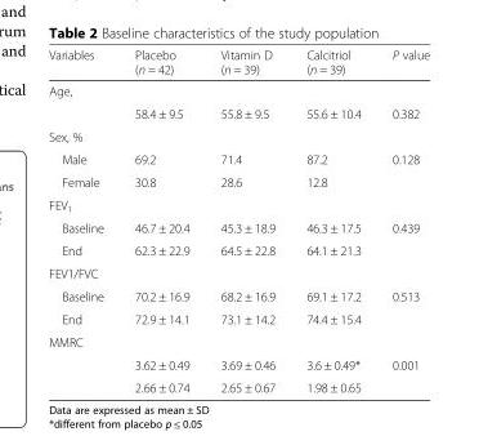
<table><thead><tr><td>Variables</td><td>Placebo (n = 42)</td><td>Vitamin D (n = 39)</td><td>Calcitriol (n = 39)</td><td>P value</td></tr></thead><tbody><tr><td colspan="5">Age,</td></tr><tr><td></td><td>58.4 ± 9.5</td><td>55.8 ± 9.5</td><td>55.6 ± 10.4</td><td>0.382</td></tr><tr><td colspan="5">Sex, %</td></tr><tr><td>Male</td><td>69.2</td><td>71.4</td><td>87.2</td><td rowspan="2">0.128</td></tr><tr><td>Female</td><td>30.8</td><td>28.6</td><td>12.8</td></tr><tr><td colspan="5">FEV<sub>1</sub></td></tr><tr><td>Baseline</td><td>46.7 ± 20.4</td><td>45.3 ± 18.9</td><td>46.3 ± 17.5</td><td rowspan="2">0.439</td></tr><tr><td>End</td><td>62.3 ± 22.9</td><td>64.5 ± 22.8</td><td>64.1 ± 21.3</td></tr><tr><td colspan="5">FEV1/FVC</td></tr><tr><td>Baseline</td><td>70.2 ± 16.9</td><td>68.2 ± 16.9</td><td>69.1 ± 17.2</td><td rowspan="2">0.513</td></tr><tr><td>End</td><td>72.9 ± 14.1</td><td>73.1 ± 14.2</td><td>74.4 ± 15.4</td></tr><tr><td colspan="5">MMRC</td></tr><tr><td></td><td>3.62 ± 0.49</td><td>3.69 ± 0.46</td><td>3.6 ± 0.49*</td><td>0.001</td></tr><tr><td></td><td>2.66 ± 0.74</td><td>2.65 ± 0.67</td><td>1.98 ± 0.65</td><td></td></tr></tbody></table>